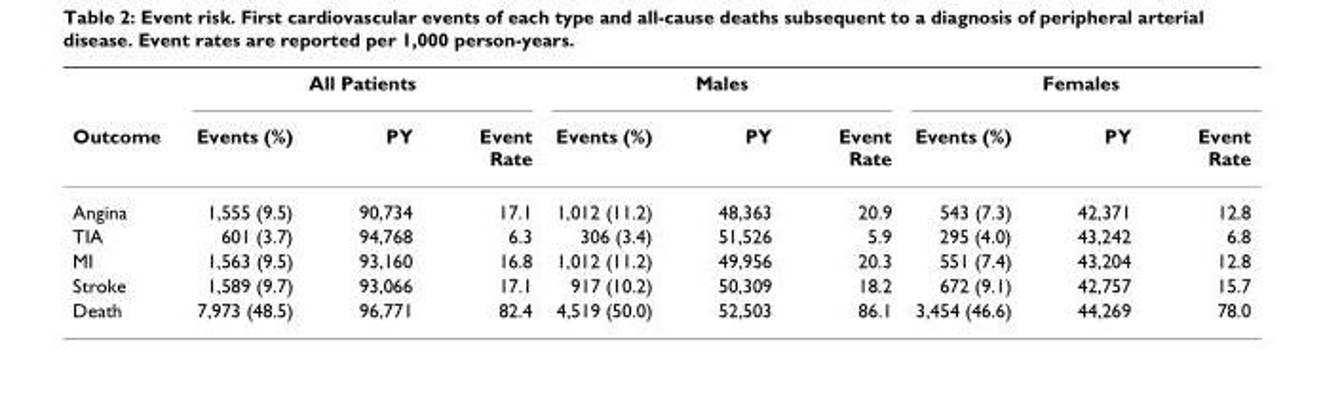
<table><thead><tr><td rowspan="2">Outcome</td><td colspan="3">All Patients</td><td colspan="3">Males</td><td colspan="3">Females</td></tr><tr><td>Events (%)</td><td>PY</td><td>Event Rate</td><td>Events (%)</td><td>PY</td><td>Event Rate</td><td>Events (%)</td><td>PY</td><td>Event Rate</td></tr></thead><tbody><tr><td>Angina</td><td>1,555 (9.5)</td><td>90,734</td><td>17.1</td><td>1,012 (11.2)</td><td>48,363</td><td>20.9</td><td>543 (7.3)</td><td>42,371</td><td>12.8</td></tr><tr><td>TIA</td><td>601 (3.7)</td><td>94,768</td><td>6.3</td><td>306 (3.4)</td><td>51,526</td><td>5.9</td><td>295 (4.0)</td><td>43,242</td><td>6.8</td></tr><tr><td>MI</td><td>1,563 (9.5)</td><td>93,160</td><td>16.8</td><td>1,012 (11.2)</td><td>49,956</td><td>20.3</td><td>551 (7.4)</td><td>43,204</td><td>12.8</td></tr><tr><td>Stroke</td><td>1,589 (9.7)</td><td>93,066</td><td>17.1</td><td>917 (10.2)</td><td>50,309</td><td>18.2</td><td>672 (9.1)</td><td>42,757</td><td>15.7</td></tr><tr><td>Death</td><td>7,973 (48.5)</td><td>96,771</td><td>82.4</td><td>4,519 (50.0)</td><td>52,503</td><td>86.1</td><td>3,454 (46.6)</td><td>44,269</td><td>78.0</td></tr></tbody></table>